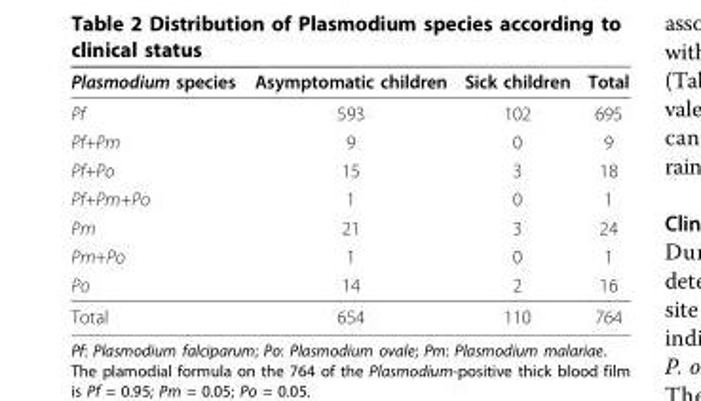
<table><thead><tr><td>Plasmodium species</td><td>Asymptomatic children</td><td>Sick children</td><td>Total</td></tr></thead><tbody><tr><td>Pf</td><td>593</td><td>102</td><td>695</td></tr><tr><td>Pf+Pm</td><td>9</td><td>0</td><td>9</td></tr><tr><td>Pf+Po</td><td>15</td><td>3</td><td>18</td></tr><tr><td>Pf+Pm+Po</td><td>1</td><td>0</td><td>1</td></tr><tr><td>Pm</td><td>21</td><td>3</td><td>24</td></tr><tr><td>Pm+Po</td><td>1</td><td>0</td><td>1</td></tr><tr><td>Po</td><td>14</td><td>2</td><td>16</td></tr><tr><td>Total</td><td>654</td><td>110</td><td>764</td></tr></tbody></table>